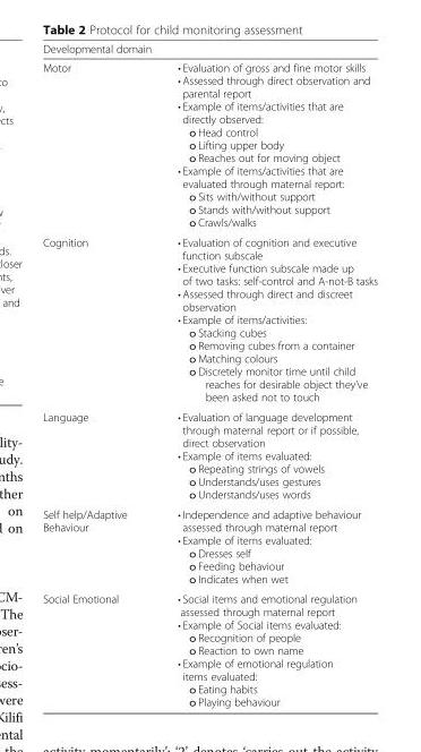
<table><thead><tr><td>Developmental domain</td><td></td></tr></thead><tbody><tr><td>Motor</td><td>• Evaluation of gross and fine motor skills • Assessed through direct observation and parental report • Example of items/activities that are directly observed: o Head control o Lifting upper body o Reaches out for moving object • Example of items/activities that are evaluated through maternal report: o Sits with/without support o Stands with/without support o Crawls/walks</td></tr><tr><td>Cognition</td><td>• Evaluation of cognition and executive function subscale • Executive function subscale made up of two tasks: self-control and A-not-B tasks • Assessed through direct and discreet observation • Example of items/activities: o Stacking cubes o Removing cubes from a container o Matching colours o Discretely monitor time until child reaches for desirable object they’ve been asked not to touch</td></tr><tr><td>Language</td><td>• Evaluation of language development through maternal report or if possible, direct observation • Example of items evaluated: o Repeating strings of vowels o Understands/uses gestures o Understands/uses words</td></tr><tr><td>Self help/Adaptive Behaviour</td><td>• Independence and adaptive behaviour assessed through maternal report • Example of items evaluated: o Dresses self o Feeding behaviour o Indicates when wet</td></tr><tr><td>Social Emotional</td><td>• Social items and emotional regulation assessed through maternal report • Example of Social items evaluated: o Recognition of people o Reaction to own name • Example of emotional regulation items evaluated: o Eating habits o Playing behaviour</td></tr></tbody></table>